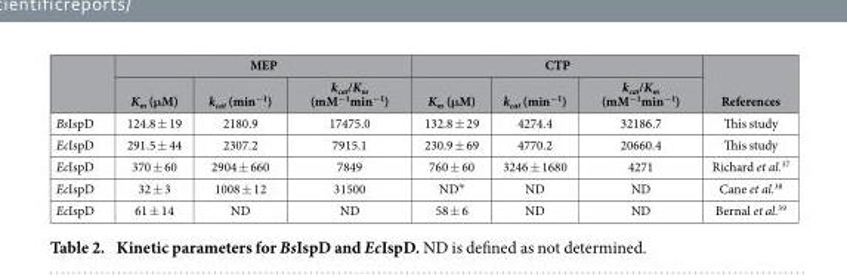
<table><thead><tr><td rowspan="2"></td><td colspan="3">MEP</td><td colspan="3">CTP</td><td rowspan="2">References</td></tr><tr><td>K<sub>m</sub> (μM)</td><td>k<sub>cat</sub> (min<sup>−1</sup>)</td><td>k<sub>cat</sub>/K<sub>m</sub> (mM<sup>−1</sup>min<sup>−1</sup>)</td><td>K<sub>m</sub> (μM)</td><td>k<sub>cat</sub> (min<sup>−1</sup>)</td><td>k<sub>cat</sub>/K<sub>m</sub> (mM<sup>−1</sup>min<sup>−1</sup>)</td></tr></thead><tbody><tr><td>BsIspD</td><td>124.8 ± 19</td><td>2180.9</td><td>17475.0</td><td>132.8 ± 29</td><td>4274.4</td><td>32186.7</td><td>This study</td></tr><tr><td>EcIspD</td><td>291.5 ± 44</td><td>2307.2</td><td>7915.1</td><td>230.9 ± 69</td><td>4770.2</td><td>20660.4</td><td>This study</td></tr><tr><td>EcIspD</td><td>370 ± 60</td><td>2904 ± 660</td><td>7849</td><td>760 ± 60</td><td>3246 ± 1680</td><td>4271</td><td>Richard et al.<sup>37</sup></td></tr><tr><td>EcIspD</td><td>32 ± 3</td><td>1008 ± 12</td><td>31500</td><td>ND⫧</td><td>ND</td><td>ND</td><td>Cane et al.<sup>38</sup></td></tr><tr><td>EcIspD</td><td>61 ± 14</td><td>ND</td><td>ND</td><td>58 ± 6</td><td>ND</td><td>ND</td><td>Bernal et al.<sup>39</sup></td></tr></tbody></table>